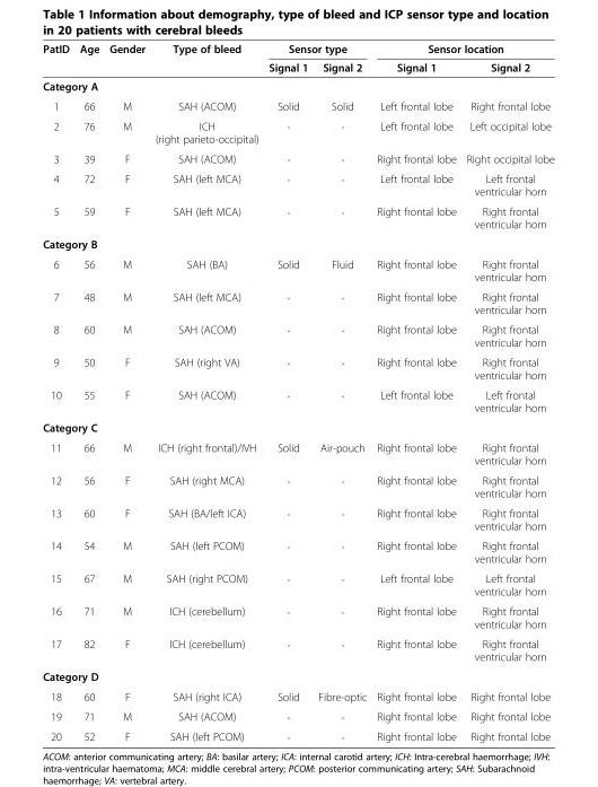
<table><thead><tr><td rowspan="2">PatID</td><td rowspan="2">Age</td><td rowspan="2">Gender</td><td rowspan="2">Type of bleed</td><td colspan="2">Sensor type</td><td colspan="2">Sensor location</td></tr><tr><td>Signal 1</td><td>Signal 2</td><td>Signal 1</td><td>Signal 2</td></tr></thead><tbody><tr><td colspan="8">Category A</td></tr><tr><td>1</td><td>66</td><td>M</td><td>SAH (ACOM)</td><td>Solid</td><td>Solid</td><td>Left frontal lobe</td><td>Right frontal lobe</td></tr><tr><td>2</td><td>76</td><td>M</td><td>ICH (right parieto-occipital)</td><td><sub>“</sub></td><td><sub>“</sub></td><td>Left frontal lobe</td><td>Left occipital lobe</td></tr><tr><td>3</td><td>39</td><td>F</td><td>SAH (ACOM)</td><td><sub>“</sub></td><td><sub>“</sub></td><td>Right frontal lobe</td><td>Right occipital lobe</td></tr><tr><td>4</td><td>72</td><td>F</td><td>SAH (left MCA)</td><td><sub>“</sub></td><td><sub>“</sub></td><td>Left frontal lobe</td><td>Left frontal ventricular horn</td></tr><tr><td>5</td><td>59</td><td>F</td><td>SAH (left MCA)</td><td><sub>“</sub></td><td><sub>“</sub></td><td>Right frontal lobe</td><td>Right frontal ventricular horn</td></tr><tr><td colspan="8">Category B</td></tr><tr><td>6</td><td>56</td><td>M</td><td>SAH (BA)</td><td>Solid</td><td>Fluid</td><td>Right frontal lobe</td><td>Right frontal ventricular horn</td></tr><tr><td>7</td><td>48</td><td>M</td><td>SAH (left MCA)</td><td><sub>“</sub></td><td><sub>“</sub></td><td>Right frontal lobe</td><td>Right frontal ventricular horn</td></tr><tr><td>8</td><td>60</td><td>M</td><td>SAH (ACOM)</td><td><sub>“</sub></td><td><sub>“</sub></td><td>Right frontal lobe</td><td>Right frontal ventricular horn</td></tr><tr><td>9</td><td>50</td><td>F</td><td>SAH (right VA)</td><td><sub>“</sub></td><td><sub>“</sub></td><td>Right frontal lobe</td><td>Right frontal ventricular horn</td></tr><tr><td>10</td><td>55</td><td>F</td><td>SAH (ACOM)</td><td><sub>“</sub></td><td><sub>“</sub></td><td>Left frontal lobe</td><td>Left frontal ventricular horn</td></tr><tr><td colspan="8">Category C</td></tr><tr><td>11</td><td>66</td><td>M</td><td>ICH (right frontal)/IVH</td><td>Solid</td><td>Air-pouch</td><td>Right frontal lobe</td><td>Right frontal ventricular horn</td></tr><tr><td>12</td><td>56</td><td>F</td><td>SAH (right MCA)</td><td><sub>“</sub></td><td><sub>“</sub></td><td>Right frontal lobe</td><td>Right frontal ventricular horn</td></tr><tr><td>13</td><td>60</td><td>F</td><td>SAH (BA/left ICA)</td><td><sub>“</sub></td><td><sub>“</sub></td><td>Right frontal lobe</td><td>Right frontal ventricular horn</td></tr><tr><td>14</td><td>54</td><td>M</td><td>SAH (left PCOM)</td><td><sub>“</sub></td><td><sub>“</sub></td><td>Right frontal lobe</td><td>Right frontal ventricular horn</td></tr><tr><td>15</td><td>67</td><td>M</td><td>SAH (right PCOM)</td><td><sub>“</sub></td><td><sub>“</sub></td><td>Left frontal lobe</td><td>Left frontal ventricular horn</td></tr><tr><td>16</td><td>71</td><td>M</td><td>ICH (cerebellum)</td><td><sub>“</sub></td><td><sub>“</sub></td><td>Right frontal lobe</td><td>Right frontal ventricular horn</td></tr><tr><td>17</td><td>82</td><td>F</td><td>ICH (cerebellum)</td><td><sub>“</sub></td><td><sub>“</sub></td><td>Right frontal lobe</td><td>Right frontal ventricular horn</td></tr><tr><td colspan="8">Category D</td></tr><tr><td>18</td><td>60</td><td>F</td><td>SAH (right ICA)</td><td>Solid</td><td>Fibre-optic</td><td>Right frontal lobe</td><td>Right frontal lobe</td></tr><tr><td>19</td><td>71</td><td>M</td><td>SAH (ACOM)</td><td><sub>“</sub></td><td><sub>“</sub></td><td>Right frontal lobe</td><td>Right frontal lobe</td></tr><tr><td>20</td><td>52</td><td>F</td><td>SAH (left PCOM)</td><td><sub>“</sub></td><td><sub>“</sub></td><td>Right frontal lobe</td><td>Right frontal lobe</td></tr></tbody></table>